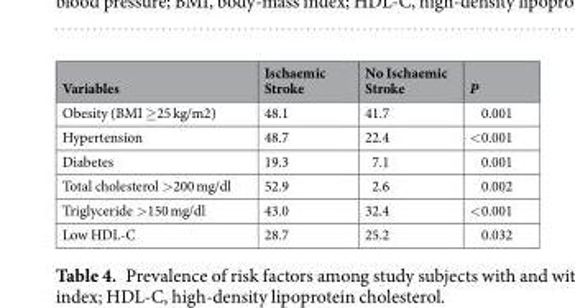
<table><thead><tr><td>Variables</td><td>Ischaemic Stroke</td><td>No Ischaemic Stroke</td><td>P</td></tr></thead><tbody><tr><td>Obesity (BMI ≥25 kg/m2)</td><td>48.1</td><td>41.7</td><td>0.001</td></tr><tr><td>Hypertension</td><td>48.7</td><td>22.4</td><td>&lt;0.001</td></tr><tr><td>Diabetes</td><td>19.3</td><td>7.1</td><td>0.001</td></tr><tr><td>Total cholesterol &gt;200 mg/dl</td><td>52.9</td><td>2.6</td><td>0.002</td></tr><tr><td>Triglyceride &gt;150 mg/dl</td><td>43.0</td><td>32.4</td><td>&lt;0.001</td></tr><tr><td>Low HDL-C</td><td>28.7</td><td>25.2</td><td>0.032</td></tr></tbody></table>